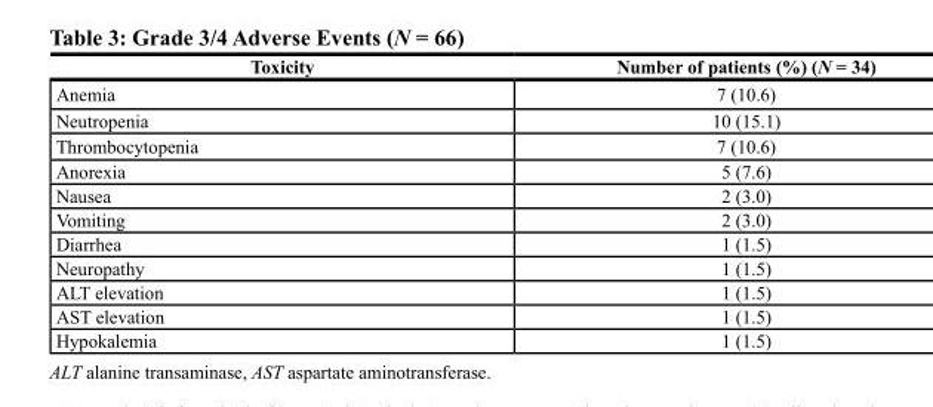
<table><thead><tr><td>toxicity</td><td>number of patients (%) (N = 34)</td></tr></thead><tbody><tr><td>Anemia</td><td>7 (10.6)</td></tr><tr><td>Neutropenia</td><td>10 (15.1)</td></tr><tr><td>Thrombocytopenia</td><td>7 (10.6)</td></tr><tr><td>Anorexia</td><td>5 (7.6)</td></tr><tr><td>Nausea</td><td>2 (3.0)</td></tr><tr><td>Vomiting</td><td>2 (3.0)</td></tr><tr><td>Diarrhea</td><td>1 (1.5)</td></tr><tr><td>Neuropathy</td><td>1 (1.5)</td></tr><tr><td>ALT elevation</td><td>1 (1.5)</td></tr><tr><td>AST elevation</td><td>1 (1.5)</td></tr><tr><td>Hypokalemia</td><td>1 (1.5)</td></tr></tbody></table>